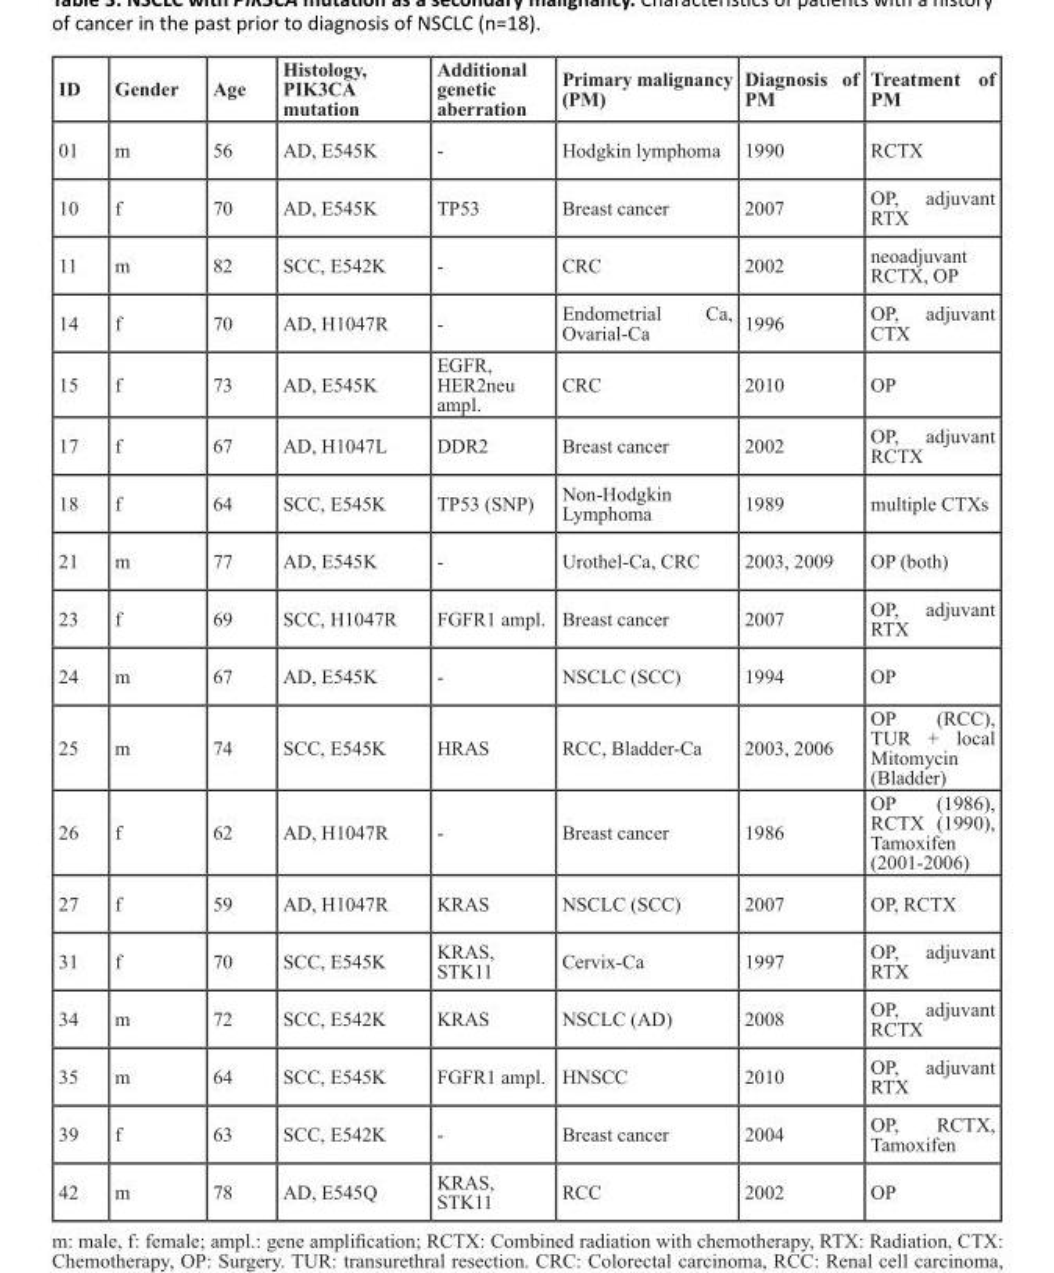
<table><thead><tr><td>ID</td><td>Gender</td><td>Age</td><td>Histology, PIK3CA mutation</td><td>Additional genetic aberration</td><td>Primary malignancy (PM)</td><td>Diagnosis of PM</td><td>Treatment of PM</td></tr></thead><tbody><tr><td>01</td><td>m</td><td>56</td><td>AD, E545K</td><td>-</td><td>Hodgkin lymphoma</td><td>1990</td><td>RCTX</td></tr><tr><td>10</td><td>f</td><td>70</td><td>AD, E545K</td><td>TP53</td><td>Breast cancer</td><td>2007</td><td>OP, adjuvant RTX</td></tr><tr><td>11</td><td>m</td><td>82</td><td>SCC, E542K</td><td>-</td><td>CRC</td><td>2002</td><td>neoadjuvant RCTX, OP</td></tr><tr><td>14</td><td>f</td><td>70</td><td>AD, H1047R</td><td>-</td><td>Endometrial Ca, Ovarial-Ca</td><td>1996</td><td>OP, adjuvant CTX</td></tr><tr><td>15</td><td>f</td><td>73</td><td>AD, E545K</td><td>EGFR, HER2neu ampl.</td><td>CRC</td><td>2010</td><td>OP</td></tr><tr><td>17</td><td>f</td><td>67</td><td>AD, H1047L</td><td>DDR2</td><td>Breast cancer</td><td>2002</td><td>OP, adjuvant RCTX</td></tr><tr><td>18</td><td>f</td><td>64</td><td>SCC, E545K</td><td>TP53 (SNP)</td><td>Non-Hodgkin Lymphoma</td><td>1989</td><td>multiple CTXs</td></tr><tr><td>21</td><td>m</td><td>77</td><td>AD, E545K</td><td>-</td><td>Urothel-Ca, CRC</td><td>2003, 2009</td><td>OP (both)</td></tr><tr><td>23</td><td>f</td><td>69</td><td>SCC, H1047R</td><td>FGFR1 ampl.</td><td>Breast cancer</td><td>2007</td><td>OP, adjuvant RTX</td></tr><tr><td>24</td><td>m</td><td>67</td><td>AD, E545K</td><td>-</td><td>NSCLC (SCC)</td><td>1994</td><td>OP</td></tr><tr><td>25</td><td>m</td><td>74</td><td>SCC, E545K</td><td>HRAS</td><td>RCC, Bladder-Ca</td><td>2003, 2006</td><td>OP (RCC), TUR + local Mitomycin (Bladder)</td></tr><tr><td>26</td><td>f</td><td>62</td><td>AD, H1047R</td><td>-</td><td>Breast cancer</td><td>1986</td><td>OP (1986), RCTX (1990), Tamoxifen (2001-2006)</td></tr><tr><td>27</td><td>f</td><td>59</td><td>AD, H1047R</td><td>KRAS</td><td>NSCLC (SCC)</td><td>2007</td><td>OP, RCTX</td></tr><tr><td>31</td><td>f</td><td>70</td><td>SCC, E545K</td><td>KRAS, STK11</td><td>Cervix-Ca</td><td>1997</td><td>OP, adjuvant RTX</td></tr><tr><td>34</td><td>m</td><td>72</td><td>SCC, E542K</td><td>KRAS</td><td>NSCLC (AD)</td><td>2008</td><td>OP, adjuvant RCTX</td></tr><tr><td>35</td><td>m</td><td>64</td><td>SCC, E545K</td><td>FGFR1 ampl.</td><td>HNSCC</td><td>2010</td><td>OP, adjuvant RTX</td></tr><tr><td>39</td><td>f</td><td>63</td><td>SCC, E542K</td><td>-</td><td>Breast cancer</td><td>2004</td><td>OP, RCTX, Tamoxifen</td></tr><tr><td>42</td><td>m</td><td>78</td><td>AD, E545Q</td><td>KRAS, STK11</td><td>RCC</td><td>2002</td><td>OP</td></tr></tbody></table>